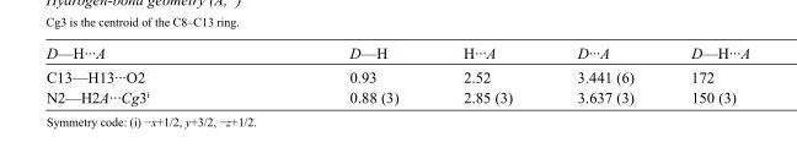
<table><tbody><tr><td>D—H···A</td><td>D—H</td><td>H···A</td><td>D···A</td><td>D—H···A</td></tr><tr><td>C13—H13···O2</td><td>0.93</td><td>2.52</td><td>3.441 (6)</td><td>172</td></tr><tr><td>N2—H2A···Cg3<sup>i</sup></td><td>0.88 (3)</td><td>2.85 (3)</td><td>3.637 (3)</td><td>150 (3)</td></tr></tbody></table>